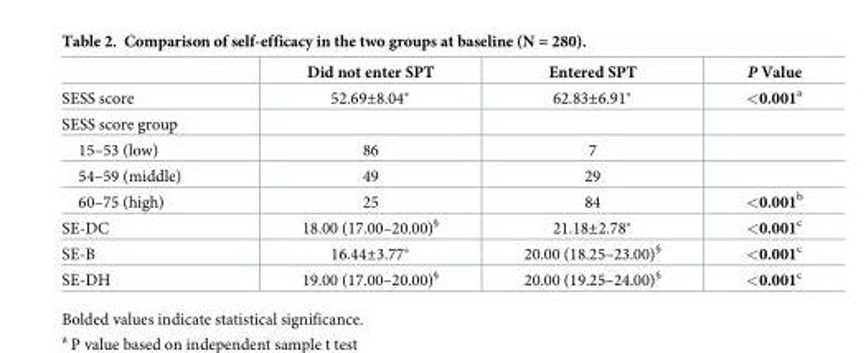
<table><thead><tr><td></td><td>Did not enter SPT</td><td>Entered SPT</td><td>P Value</td></tr></thead><tbody><tr><td>SESS score</td><td>52.69±8.04*</td><td>62.83±6.91*</td><td>&lt;0.001<sup>a</sup></td></tr><tr><td colspan="4">SESS score group</td></tr><tr><td>15–53 (low)</td><td>86</td><td>7</td><td></td></tr><tr><td>54–59 (middle)</td><td>49</td><td>29</td><td></td></tr><tr><td>60–75 (high)</td><td>25</td><td>84</td><td>&lt;0.001<sup>b</sup></td></tr><tr><td>SE-DC</td><td>18.00 (17.00–20.00)<sup>§</sup></td><td>21.18±2.78*</td><td>&lt;0.001<sup>c</sup></td></tr><tr><td>SE-B</td><td>16.44±3.77*</td><td>20.00 (18.25–23.00)<sup>§</sup></td><td>&lt;0.001<sup>c</sup></td></tr><tr><td>SE-DH</td><td>19.00 (17.00–20.00)<sup>§</sup></td><td>20.00 (19.25–24.00)<sup>§</sup></td><td>&lt;0.001<sup>c</sup></td></tr></tbody></table>